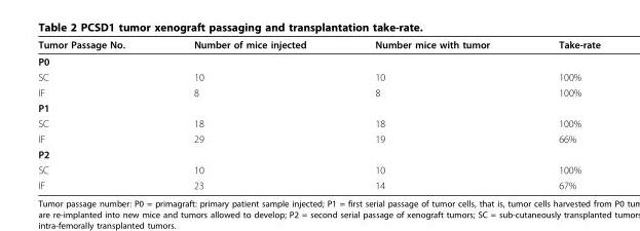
<table><thead><tr><td>Tumor Passage No.</td><td>Number of mice injected</td><td>Number mice with tumor</td><td>Take-rate</td></tr></thead><tbody><tr><td colspan="4">P0</td></tr><tr><td>SC</td><td>10</td><td>10</td><td>100%</td></tr><tr><td>IF</td><td>8</td><td>8</td><td>100%</td></tr><tr><td colspan="4">P1</td></tr><tr><td>SC</td><td>18</td><td>18</td><td>100%</td></tr><tr><td>IF</td><td>29</td><td>19</td><td>66%</td></tr><tr><td colspan="4">P2</td></tr><tr><td>SC</td><td>10</td><td>10</td><td>100%</td></tr><tr><td>IF</td><td>23</td><td>14</td><td>67%</td></tr></tbody></table>